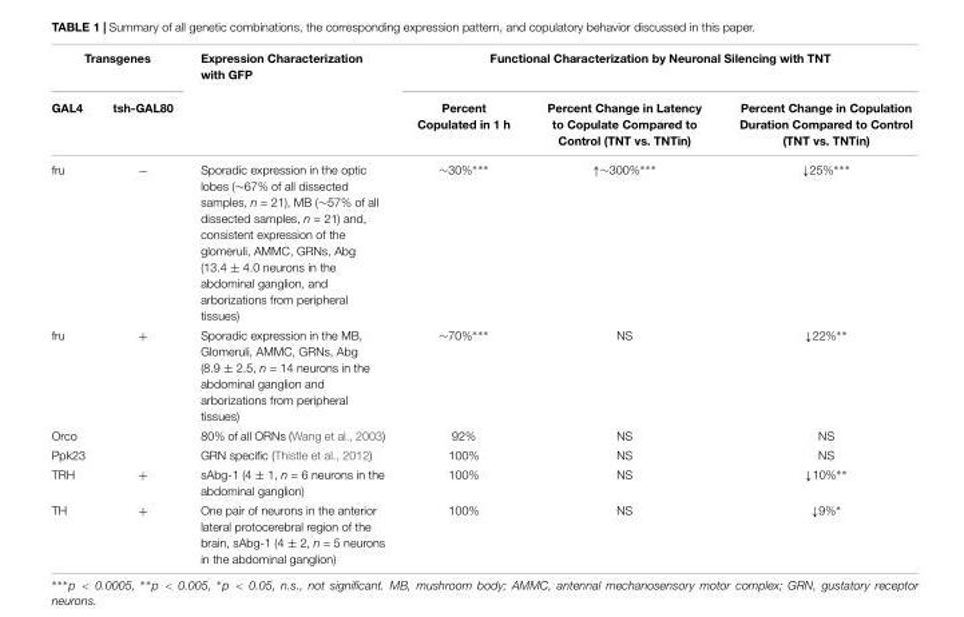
<table><thead><tr><td colspan="2">Transgenes</td><td rowspan="2">Expression Characterization with GFP</td><td colspan="3">Functional Characterization by Neuronal Silencing with TNT</td></tr><tr><td>GAL4</td><td>tsh-GAL80</td><td>Percent Copulated in 1 h</td><td>Percent Change in Latency to Copulate Compared to Control (TNT vs. TNTin)</td><td>Percent Change in Copulation Duration Compared to Control (TNT vs. TNTin)</td></tr></thead><tbody><tr><td>fru</td><td>−</td><td>Sporadic expression in the optic lobes (∼67% of all dissected samples, n = 21), MB (∼57% of all dissected samples, n = 21) and, consistent expression of the glomeruli, AMMC, GRNs, Abg (13.4 ± 4.0 neurons in the abdominal ganglion, and arborizations from peripheral tissues)</td><td>∼30%∗∗∗</td><td>↑∼300%∗∗∗</td><td>↓25%∗∗∗</td></tr><tr><td>fru</td><td>+</td><td>Sporadic expression in the MB, Glomeruli, AMMC, GRNs, Abg (8.9 ± 2.5, n = 14 neurons in the abdominal ganglion and arborizations from peripheral tissues)</td><td>∼70%∗∗∗</td><td>NS</td><td>↓22%∗∗</td></tr><tr><td>Orco</td><td></td><td>80% of all ORNs (Wang et al., 2003)</td><td>92%</td><td>NS</td><td>NS</td></tr><tr><td>Ppk23</td><td></td><td>GRN specific (Thistle et al., 2012)</td><td>100%</td><td>NS</td><td>NS</td></tr><tr><td>TRH</td><td>+</td><td>sAbg-1 (4 ± 1, n = 6 neurons in the abdominal ganglion)</td><td>100%</td><td>NS</td><td>↓10%∗∗</td></tr><tr><td>TH</td><td>+</td><td>One pair of neurons in the anterior lateral protocerebral region of the brain, sAbg-1 (4 ± 2, n = 5 neurons in the abdominal ganglion)</td><td>100%</td><td>NS</td><td>↓9%∗</td></tr></tbody></table>